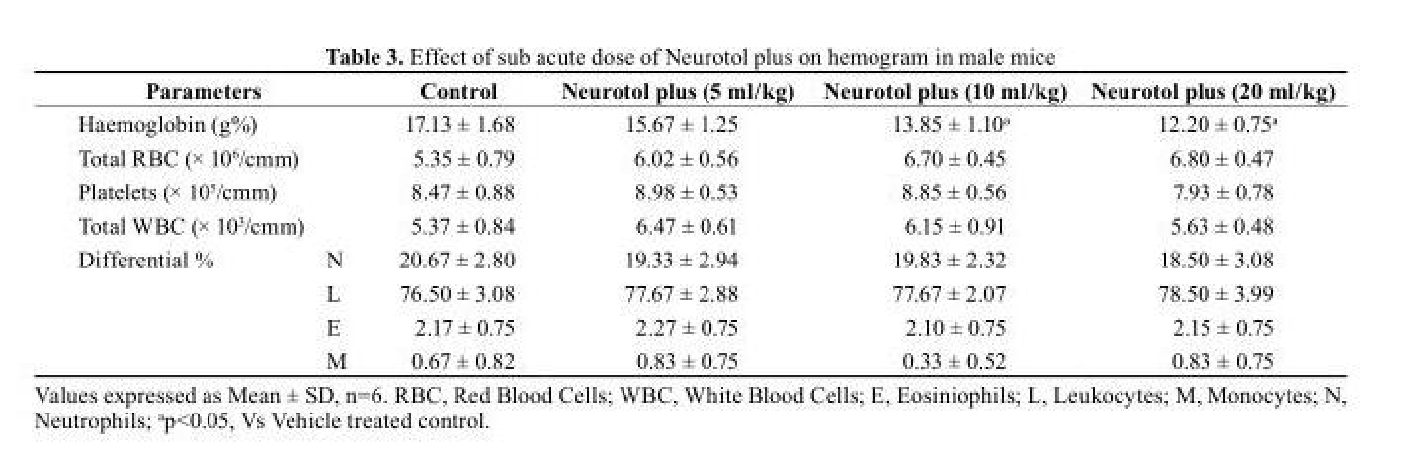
<table><thead><tr><td colspan="2">Parameters</td><td>control</td><td>Neurotol plus (5 ml/kg)</td><td>Neurotol plus (10 ml/kg)</td><td>Neurotol plus (20 ml/kg)</td></tr></thead><tbody><tr><td colspan="2">Haemoglobin (g%)</td><td>17.13 ± 1.68</td><td>15.67 ± 1.25</td><td>13.85 ± 1.10<sup>a</sup></td><td>12.20 ± 0.75<sup>a</sup></td></tr><tr><td colspan="2">Total RBC (× 10<sup>6</sup>/cmm)</td><td>5.35 ± 0.79</td><td>6.02 ± 0.56</td><td>6.70 ± 0.45</td><td>6.80 ± 0.47</td></tr><tr><td colspan="2">Platelets (× 10<sup>5</sup>/cmm)</td><td>8.47 ± 0.88</td><td>8.98 ± 0.53</td><td>8.85 ± 0.56</td><td>7.93 ± 0.78</td></tr><tr><td colspan="2">Total WBC (× 10<sup>3</sup>/cmm)</td><td>5.37 ± 0.84</td><td>6.47 ± 0.61</td><td>6.15 ± 0.91</td><td>5.63 ± 0.48</td></tr><tr><td rowspan="4">Differential %</td><td>N</td><td>20.67 ± 2.80</td><td>19.33 ± 2.94</td><td>19.83 ± 2.32</td><td>18.50 ± 3.08</td></tr><tr><td>L</td><td>76.50 ± 3.08</td><td>77.67 ± 2.88</td><td>77.67 ± 2.07</td><td>78.50 ± 3.99</td></tr><tr><td>E</td><td>2.17 ± 0.75</td><td>2.27 ± 0.75</td><td>2.10 ± 0.75</td><td>2.15 ± 0.75</td></tr><tr><td>M</td><td>0.67 ± 0.82</td><td>0.83 ± 0.75</td><td>0.33 ± 0.52</td><td>0.83 ± 0.75</td></tr></tbody></table>